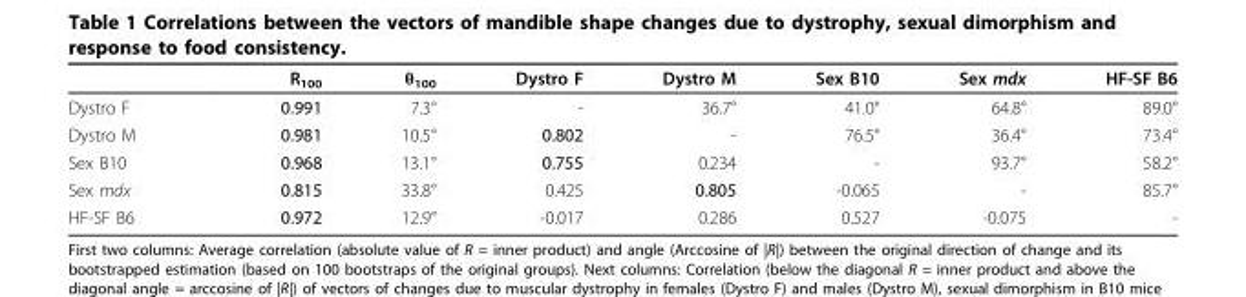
<table><thead><tr><td></td><td>R<sub>100</sub></td><td>θ<sub>100</sub></td><td>Dystro F</td><td>Dystro M</td><td>Sex B10</td><td>Sex mdx</td><td>HF-SF B6</td></tr></thead><tbody><tr><td>Dystro F</td><td>0.991</td><td>7.3°</td><td>-</td><td>36.7°</td><td>41.0°</td><td>64.8°</td><td>89.0°</td></tr><tr><td>Dystro M</td><td>0.981</td><td>10.5°</td><td>0.802</td><td>-</td><td>76.5°</td><td>36.4°</td><td>73.4°</td></tr><tr><td>Sex B10</td><td>0.968</td><td>13.1°</td><td>0.755</td><td>0.234</td><td>-</td><td>93.7°</td><td>58.2°</td></tr><tr><td>Sex mdx</td><td>0.815</td><td>33.8°</td><td>0.425</td><td>0.805</td><td>-0.065</td><td>-</td><td>85.7°</td></tr><tr><td>HF-SF B6</td><td>0.972</td><td>12.9°</td><td>-0.017</td><td>0.286</td><td>0.527</td><td>-0.075</td><td>-</td></tr></tbody></table>